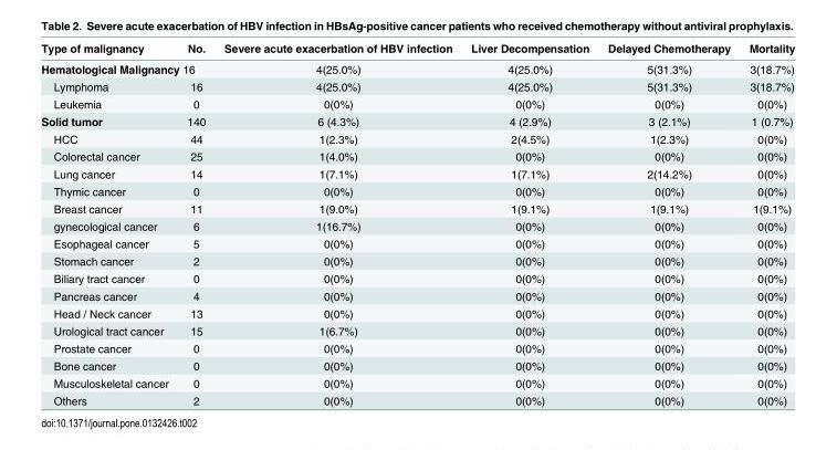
<table><thead><tr><td>Type of malignancy</td><td>No.</td><td>Severe acute exacerbation of HBV infection</td><td>Liver Decompensation</td><td>Delayed Chemotherapy</td><td>Mortality</td></tr></thead><tbody><tr><td colspan="2">Hematological Malignancy 16</td><td>4(25.0%)</td><td>4(25.0%)</td><td>5(31.3%)</td><td>3(18.7%)</td></tr><tr><td>Lymphoma</td><td>16</td><td>4(25.0%)</td><td>4(25.0%)</td><td>5(31.3%)</td><td>3(18.7%)</td></tr><tr><td>Leukemia</td><td>0</td><td>0(0%)</td><td>0(0%)</td><td>0(0%)</td><td>0(0%)</td></tr><tr><td>Solid tumor</td><td>140</td><td>6 (4.3%)</td><td>4 (2.9%)</td><td>3 (2.1%)</td><td>1 (0.7%)</td></tr><tr><td>HCC</td><td>44</td><td>1(2.3%)</td><td>2(4.5%)</td><td>1(2.3%)</td><td>0(0%)</td></tr><tr><td>Colorectal cancer</td><td>25</td><td>1(4.0%)</td><td>0(0%)</td><td>0(0%)</td><td>0(0%)</td></tr><tr><td>Lung cancer</td><td>14</td><td>1(7.1%)</td><td>1(7.1%)</td><td>2(14.2%)</td><td>0(0%)</td></tr><tr><td>Thymic cancer</td><td>0</td><td>0(0%)</td><td>0(0%)</td><td>0(0%)</td><td>0(0%)</td></tr><tr><td>Breast cancer</td><td>11</td><td>1(9.0%)</td><td>1(9.1%)</td><td>1(9.1%)</td><td>1(9.1%)</td></tr><tr><td>gynecological cancer</td><td>6</td><td>1(16.7%)</td><td>0(0%)</td><td>0(0%)</td><td>0(0%)</td></tr><tr><td>Esophageal cancer</td><td>5</td><td>0(0%)</td><td>0(0%)</td><td>0(0%)</td><td>0(0%)</td></tr><tr><td>Stomach cancer</td><td>2</td><td>0(0%)</td><td>0(0%)</td><td>0(0%)</td><td>0(0%)</td></tr><tr><td>Biliary tract cancer</td><td>0</td><td>0(0%)</td><td>0(0%)</td><td>0(0%)</td><td>0(0%)</td></tr><tr><td>Pancreas cancer</td><td>4</td><td>0(0%)</td><td>0(0%)</td><td>0(0%)</td><td>0(0%)</td></tr><tr><td>Head / Neck cancer</td><td>13</td><td>0(0%)</td><td>0(0%)</td><td>0(0%)</td><td>0(0%)</td></tr><tr><td>Urological tract cancer</td><td>15</td><td>1(6.7%)</td><td>0(0%)</td><td>0(0%)</td><td>0(0%)</td></tr><tr><td>Prostate cancer</td><td>0</td><td>0(0%)</td><td>0(0%)</td><td>0(0%)</td><td>0(0%)</td></tr><tr><td>Bone cancer</td><td>0</td><td>0(0%)</td><td>0(0%)</td><td>0(0%)</td><td>0(0%)</td></tr><tr><td>Musculoskeletal cancer</td><td>0</td><td>0(0%)</td><td>0(0%)</td><td>0(0%)</td><td>0(0%)</td></tr><tr><td>Others</td><td>2</td><td>0(0%)</td><td>0(0%)</td><td>0(0%)</td><td>0(0%)</td></tr></tbody></table>